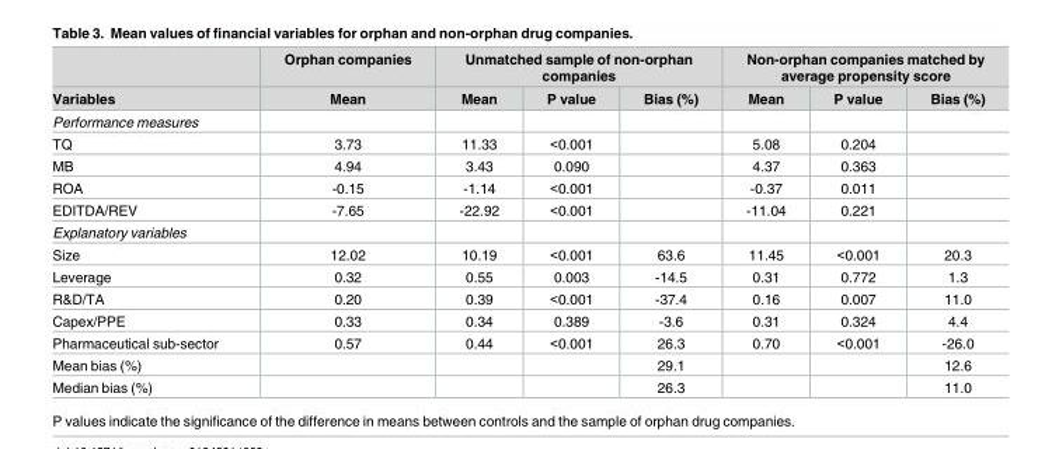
<table><thead><tr><td rowspan="2">Variables</td><td rowspan="2">Orphan companies Mean</td><td colspan="3">Unmatched sample of non-orphan companies</td><td colspan="3">Non-orphan companies matched by average propensity score</td></tr><tr><td>Mean</td><td>P value</td><td>Bias (%)</td><td>Mean</td><td>P value</td><td>Bias (%)</td></tr></thead><tbody><tr><td colspan="8">Performance measures</td></tr><tr><td>TQ</td><td>3.73</td><td>11.33</td><td>&lt;0.001</td><td></td><td>5.08</td><td>0.204</td><td></td></tr><tr><td>MB</td><td>4.94</td><td>3.43</td><td>0.090</td><td></td><td>4.37</td><td>0.363</td><td></td></tr><tr><td>ROA</td><td>-0.15</td><td>-1.14</td><td>&lt;0.001</td><td></td><td>-0.37</td><td>0.011</td><td></td></tr><tr><td>EDITDA/REV</td><td>-7.65</td><td>-22.92</td><td>&lt;0.001</td><td></td><td>-11.04</td><td>0.221</td><td></td></tr><tr><td colspan="8">Explanatory variables</td></tr><tr><td>Size</td><td>12.02</td><td>10.19</td><td>&lt;0.001</td><td>63.6</td><td>11.45</td><td>&lt;0.001</td><td>20.3</td></tr><tr><td>Leverage</td><td>0.32</td><td>0.55</td><td>0.003</td><td>-14.5</td><td>0.31</td><td>0.772</td><td>1.3</td></tr><tr><td>R&amp;D/TA</td><td>0.20</td><td>0.39</td><td>&lt;0.001</td><td>-37.4</td><td>0.16</td><td>0.007</td><td>11.0</td></tr><tr><td>Capex/PPE</td><td>0.33</td><td>0.34</td><td>0.389</td><td>-3.6</td><td>0.31</td><td>0.324</td><td>4.4</td></tr><tr><td>Pharmaceutical sub-sector</td><td>0.57</td><td>0.44</td><td>&lt;0.001</td><td>26.3</td><td>0.70</td><td>&lt;0.001</td><td>-26.0</td></tr><tr><td>Mean bias (%)</td><td></td><td></td><td></td><td>29.1</td><td></td><td></td><td>12.6</td></tr><tr><td>Median bias (%)</td><td></td><td></td><td></td><td>26.3</td><td></td><td></td><td>11.0</td></tr></tbody></table>